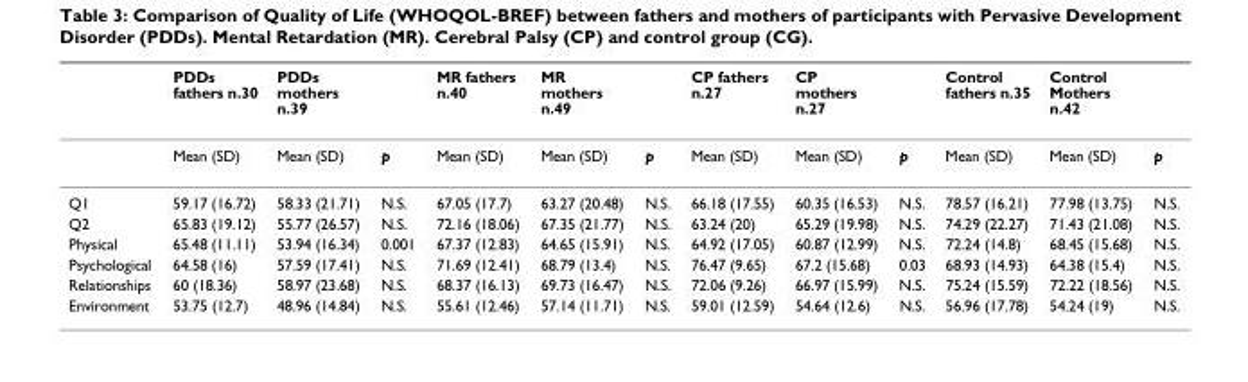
<table><thead><tr><td></td><td>PDDs fathers n.30</td><td>PDDs mothers n.39</td><td></td><td>MR fathers n.40</td><td>MR mothers n.49</td><td></td><td>CP fathers n.27</td><td>CP mothers n.27</td><td></td><td>Control fathers n.35</td><td>Control Mothers n.42</td><td></td></tr></thead><tbody><tr><td></td><td>Mean (SD)</td><td>Mean (SD)</td><td>p</td><td>Mean (SD)</td><td>Mean (SD)</td><td>p</td><td>Mean (SD)</td><td>Mean (SD)</td><td>p</td><td>Mean (SD)</td><td>Mean (SD)</td><td>p</td></tr><tr><td>Q1</td><td>59.17 (16.72)</td><td>58.33 (21.71)</td><td>N.S.</td><td>67.05 (17.7)</td><td>63.27 (20.48)</td><td>N.S.</td><td>66.18 (17.55)</td><td>60.35 (16.53)</td><td>N.S.</td><td>78.57 (16.21)</td><td>77.98 (13.75)</td><td>N.S.</td></tr><tr><td>Q2</td><td>65.83 (19.12)</td><td>55.77 (26.57)</td><td>N.S.</td><td>72.16 (18.06)</td><td>67.35 (21.77)</td><td>N.S.</td><td>63.24 (20)</td><td>65.29 (19.98)</td><td>N.S.</td><td>74.29 (22.27)</td><td>71.43 (21.08)</td><td>N.S.</td></tr><tr><td>Physical</td><td>65.48 (11.11)</td><td>53.94 (16.34)</td><td>0.001</td><td>67.37 (12.83)</td><td>64.65 (15.91)</td><td>N.S.</td><td>64.92 (17.05)</td><td>60.87 (12.99)</td><td>N.S.</td><td>72.24 (14.8)</td><td>68.45 (15.68)</td><td>N.S.</td></tr><tr><td>Psychological</td><td>64.58 (16)</td><td>57.59 (17.41)</td><td>N.S.</td><td>71.69 (12.41)</td><td>68.79 (13.4)</td><td>N.S.</td><td>76.47 (9.65)</td><td>67.2 (15.68)</td><td>0.03</td><td>68.93 (14.93)</td><td>64.38 (15.4)</td><td>N.S.</td></tr><tr><td>Relationships</td><td>60 (18.36)</td><td>58.97 (23.68)</td><td>N.S.</td><td>68.37 (16.13)</td><td>69.73 (16.47)</td><td>N.S.</td><td>72.06 (9.26)</td><td>66.97 (15.99)</td><td>N.S.</td><td>75.24 (15.59)</td><td>72.22 (18.56)</td><td>N.S.</td></tr><tr><td>Environment</td><td>53.75 (12.7)</td><td>48.96 (14.84)</td><td>N.S.</td><td>55.61 (12.46)</td><td>57.14 (11.71)</td><td>N.S.</td><td>59.01 (12.59)</td><td>54.64 (12.6)</td><td>N.S.</td><td>56.96 (17.78)</td><td>54.24 (19)</td><td>N.S.</td></tr></tbody></table>